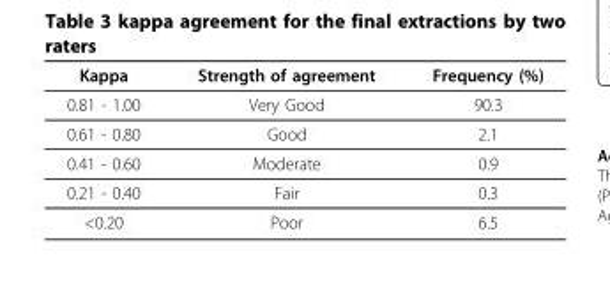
<table><thead><tr><td>Kappa</td><td>Strength of agreement</td><td>Frequency (%)</td></tr></thead><tbody><tr><td>0.81 - 1.00</td><td>Very Good</td><td>90.3</td></tr><tr><td>0.61 - 0.80</td><td>Good</td><td>2.1</td></tr><tr><td>0.41 - 0.60</td><td>Moderate</td><td>0.9</td></tr><tr><td>0.21 - 0.40</td><td>Fair</td><td>0.3</td></tr><tr><td>&lt;0.20</td><td>Poor</td><td>6.5</td></tr></tbody></table>